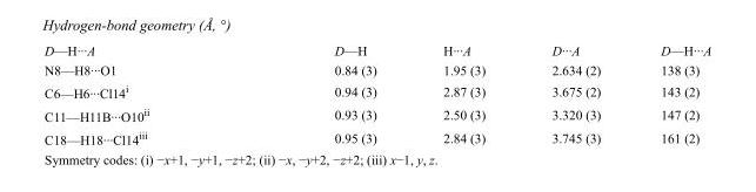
<table><tbody><tr><td>D—H···A</td><td>D—H</td><td>H···A</td><td>D···A</td><td>D—H···A</td></tr><tr><td>N8—H8···O1</td><td>0.84 (3)</td><td>1.95 (3)</td><td>2.634 (2)</td><td>138 (3)</td></tr><tr><td>C6—H6···Cl14<sup>i</sup></td><td>0.94 (3)</td><td>2.87 (3)</td><td>3.675 (2)</td><td>143 (2)</td></tr><tr><td>C11—H11B···O10<sup>ii</sup></td><td>0.93 (3)</td><td>2.50 (3)</td><td>3.320 (3)</td><td>147 (2)</td></tr><tr><td>C18—H18···Cl14<sup>iii</sup></td><td>0.95 (3)</td><td>2.84 (3)</td><td>3.745 (3)</td><td>161 (2)</td></tr></tbody></table>